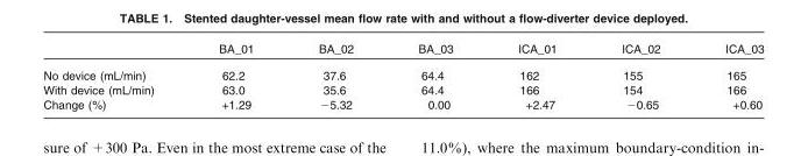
<table><thead><tr><td></td><td>BA_01</td><td>BA_02</td><td>BA_03</td><td>ICA_01</td><td>ICA_02</td><td>ICA_03</td></tr></thead><tbody><tr><td>No device (mL/min)</td><td>62.2</td><td>37.6</td><td>64.4</td><td>162</td><td>155</td><td>165</td></tr><tr><td>With device (mL/min)</td><td>63.0</td><td>35.6</td><td>64.4</td><td>166</td><td>154</td><td>166</td></tr><tr><td>Change (%)</td><td>+1.29</td><td>−5.32</td><td>0.00</td><td>+2.47</td><td>−0.65</td><td>+0.60</td></tr></tbody></table>